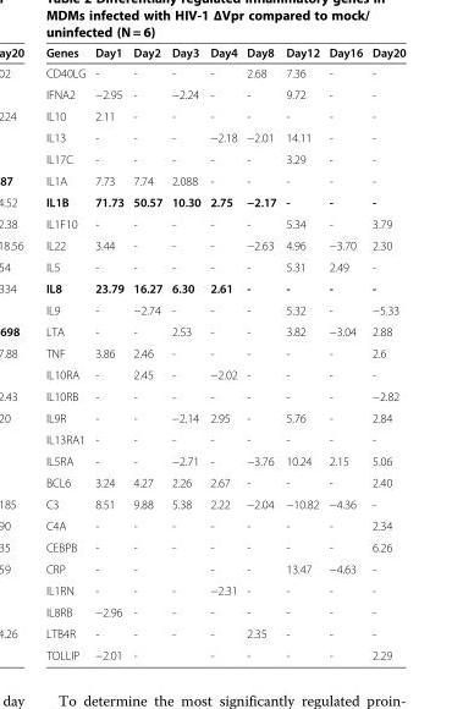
<table><thead><tr><td>Genes</td><td>Day1</td><td>Day2</td><td>Day3</td><td>Day4</td><td>Day8</td><td>Day12</td><td>Day16</td><td>Day20</td></tr></thead><tbody><tr><td>CD40LG</td><td>-</td><td>-</td><td>-</td><td>-</td><td>2.68</td><td>7.36</td><td>-</td><td>-</td></tr><tr><td>IFNA2</td><td>−2.95</td><td>-</td><td>−2.24</td><td>-</td><td>-</td><td>9.72</td><td>-</td><td>-</td></tr><tr><td>IL10</td><td>2.11</td><td>-</td><td>-</td><td>-</td><td>-</td><td>-</td><td>-</td><td>-</td></tr><tr><td>IL13</td><td>-</td><td>-</td><td>-</td><td>−2.18</td><td>−2.01</td><td>14.11</td><td>-</td><td>-</td></tr><tr><td>IL17C</td><td>-</td><td>-</td><td>-</td><td>-</td><td>-</td><td>3.29</td><td>-</td><td>-</td></tr><tr><td>IL1A</td><td>7.73</td><td>7.74</td><td>2.088</td><td>-</td><td>-</td><td>-</td><td>-</td><td>-</td></tr><tr><td>IL1B</td><td>71.73</td><td>50.57</td><td>10.30</td><td>2.75</td><td>−2.17</td><td>-</td><td>-</td><td>-</td></tr><tr><td>IL1F10</td><td>-</td><td>-</td><td>-</td><td>-</td><td>-</td><td>5.34</td><td>-</td><td>3.79</td></tr><tr><td>IL22</td><td>3.44</td><td>-</td><td>-</td><td>-</td><td>−2.63</td><td>4.96</td><td>−3.70</td><td>2.30</td></tr><tr><td>IL5</td><td>-</td><td>-</td><td>-</td><td>-</td><td>-</td><td>5.31</td><td>2.49</td><td>-</td></tr><tr><td>IL8</td><td>23.79</td><td>16.27</td><td>6.30</td><td>2.61</td><td>-</td><td>-</td><td>-</td><td>-</td></tr><tr><td>IL9</td><td>-</td><td>−2.74</td><td>-</td><td>-</td><td>-</td><td>5.32</td><td>-</td><td>−5.33</td></tr><tr><td>LTA</td><td>-</td><td>-</td><td>2.53</td><td>-</td><td>-</td><td>3.82</td><td>−3.04</td><td>2.88</td></tr><tr><td>TNF</td><td>3.86</td><td>2.46</td><td>-</td><td>-</td><td>-</td><td>-</td><td>-</td><td>2.6</td></tr><tr><td>IL10RA</td><td>-</td><td>2.45</td><td>-</td><td>−2.02</td><td>-</td><td>-</td><td>-</td><td>-</td></tr><tr><td>IL10RB</td><td>-</td><td>-</td><td>-</td><td>-</td><td>-</td><td>-</td><td>-</td><td>−2.82</td></tr><tr><td>IL9R</td><td>-</td><td>-</td><td>−2.14</td><td>2.95</td><td>-</td><td>5.76</td><td>-</td><td>2.84</td></tr><tr><td>IL13RA1</td><td>-</td><td>-</td><td>-</td><td>-</td><td>-</td><td>-</td><td>-</td><td>-</td></tr><tr><td>IL5RA</td><td>-</td><td>-</td><td>−2.71</td><td>-</td><td>−3.76</td><td>10.24</td><td>2.15</td><td>5.06</td></tr><tr><td>BCL6</td><td>3.24</td><td>4.27</td><td>2.26</td><td>2.67</td><td>-</td><td>-</td><td>-</td><td>2.40</td></tr><tr><td>C3</td><td>8.51</td><td>9.88</td><td>5.38</td><td>2.22</td><td>−2.04</td><td>−10.82</td><td>−4.36</td><td>-</td></tr><tr><td>C4A</td><td>-</td><td>-</td><td>-</td><td>-</td><td>-</td><td>-</td><td>-</td><td>2.34</td></tr><tr><td>CEBPB</td><td>-</td><td>-</td><td>-</td><td>-</td><td>-</td><td>-</td><td>-</td><td>6.26</td></tr><tr><td>CRP</td><td>-</td><td>-</td><td></td><td>-</td><td>-</td><td>13.47</td><td>−4.63</td><td>-</td></tr><tr><td>IL1RN</td><td>-</td><td>-</td><td>-</td><td>−2.31</td><td>-</td><td>-</td><td>-</td><td>-</td></tr><tr><td>IL8RB</td><td>−2.96</td><td>-</td><td>-</td><td>-</td><td>-</td><td>-</td><td>-</td><td>-</td></tr><tr><td>LTB4R</td><td>-</td><td>-</td><td>-</td><td>-</td><td>2.35</td><td>-</td><td>-</td><td>-</td></tr><tr><td>TOLLIP</td><td>−2.01</td><td>-</td><td></td><td>-</td><td>-</td><td>-</td><td>-</td><td>2.29</td></tr></tbody></table>